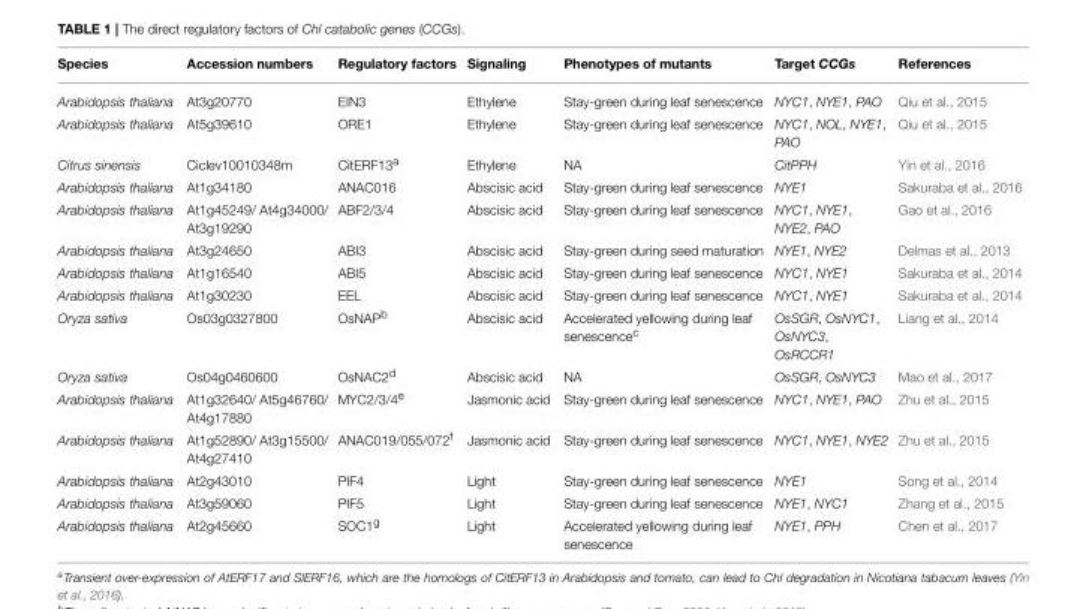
<table><thead><tr><td>Species</td><td>Accession numbers</td><td>Regulatory factors</td><td>Signaling</td><td>Phenotypes of mutants</td><td>Target CCGs</td><td>References</td></tr></thead><tbody><tr><td>Arabidopsis thaliana</td><td>At3g20770</td><td>EIN3</td><td>Ethylene</td><td>Stay-green during leaf senescence</td><td>NYC1, NYE1, PAO</td><td>Qiu et al., 2015</td></tr><tr><td>Arabidopsis thaliana</td><td>At5g39610</td><td>ORE1</td><td>Ethylene</td><td>Stay-green during leaf senescence</td><td>NYC1, NOL, NYE1, PAO</td><td>Qiu et al., 2015</td></tr><tr><td>Citrus sinensis</td><td>Ciclev10010348m</td><td>CitERF13<sup>a</sup></td><td>Ethylene</td><td>NA</td><td>CitPPH</td><td>Yin et al., 2016</td></tr><tr><td>Arabidopsis thaliana</td><td>At1g34180</td><td>ANAC016</td><td>Abscisic acid</td><td>Stay-green during leaf senescence</td><td>NYE1</td><td>Sakuraba et al., 2016</td></tr><tr><td>Arabidopsis thaliana</td><td>At1g45249/ At4g34000/ At3g19290</td><td>ABF2/3/4</td><td>Abscisic acid</td><td>Stay-green during leaf senescence</td><td>NYC1, NYE1, NYE2, PAO</td><td>Gao et al., 2016</td></tr><tr><td>Arabidopsis thaliana</td><td>At3g24650</td><td>ABI3</td><td>Abscisic acid</td><td>Stay-green during seed maturation</td><td>NYE1, NYE2</td><td>Delmas et al., 2013</td></tr><tr><td>Arabidopsis thaliana</td><td>At1g16540</td><td>ABI5</td><td>Abscisic acid</td><td>Stay-green during leaf senescence</td><td>NYC1, NYE1</td><td>Sakuraba et al., 2014</td></tr><tr><td>Arabidopsis thaliana</td><td>At1g30230</td><td>EEL</td><td>Abscisic acid</td><td>Stay-green during leaf senescence</td><td>NYC1, NYE1</td><td>Sakuraba et al., 2014</td></tr><tr><td>Oryza sativa</td><td>Os03g0327800</td><td>OsNAP<sup>b</sup></td><td>Abscisic acid</td><td>Accelerated yellowing during leaf senescence<sup>c</sup></td><td>OsSGR, OsNYC1, OsNYC3, OsRCCR1</td><td>Liang et al., 2014</td></tr><tr><td>Oryza sativa</td><td>Os04g0460600</td><td>OsNAC2<sup>d</sup></td><td>Abscisic acid</td><td>NA</td><td>OsSGR, OsNYC3</td><td>Mao et al., 2017</td></tr><tr><td>Arabidopsis thaliana</td><td>At1g32640/ At5g46760/ At4g17880</td><td>MYC2/3/4<sup>e</sup></td><td>Jasmonic acid</td><td>Stay-green during leaf senescence</td><td>NYC1, NYE1, PAO</td><td>Zhu et al., 2015</td></tr><tr><td>Arabidopsis thaliana</td><td>At1g52890/ At3g15500/ At4g27410</td><td>ANAC019/055/072<sup>f</sup></td><td>Jasmonic acid</td><td>Stay-green during leaf senescence</td><td>NYC1, NYE1, NYE2</td><td>Zhu et al., 2015</td></tr><tr><td>Arabidopsis thaliana</td><td>At2g43010</td><td>PIF4</td><td>Light</td><td>Stay-green during leaf senescence</td><td>NYE1</td><td>Song et al., 2014</td></tr><tr><td>Arabidopsis thaliana</td><td>At3g59060</td><td>PIF5</td><td>Light</td><td>Stay-green during leaf senescence</td><td>NYE1, NYC1</td><td>Zhang et al., 2015</td></tr><tr><td>Arabidopsis thaliana</td><td>At2g45660</td><td>SOC1<sup>g</sup></td><td>Light</td><td>Accelerated yellowing during leaf senescence</td><td>NYE1, PPH</td><td>Chen et al., 2017</td></tr></tbody></table>